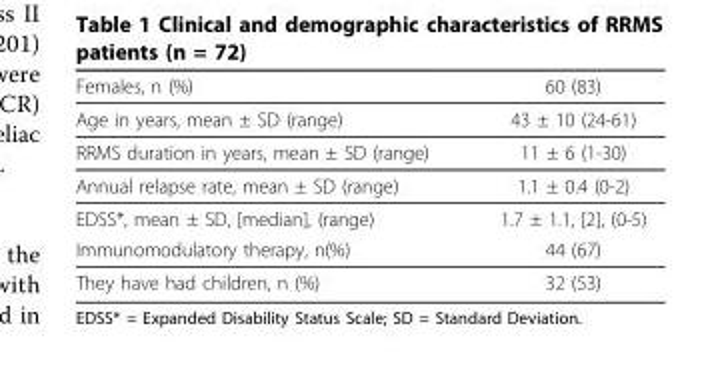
<table><thead><tr><td>Females, n (%)</td><td>60 (83)</td></tr></thead><tbody><tr><td>Age in years, mean ± SD (range)</td><td>43 ± 10 (24-61)</td></tr><tr><td>RRMS duration in years, mean ± SD (range)</td><td>11 ± 6 (1-30)</td></tr><tr><td>Annual relapse rate, mean ± SD (range)</td><td>1.1 ± 0.4 (0-2)</td></tr><tr><td>EDSS*, mean ± SD, [median], (range)</td><td>1.7 ± 1.1, [2], (0-5)</td></tr><tr><td>Immunomodulatory therapy, n(%)</td><td>44 (67)</td></tr><tr><td>They have had children, n (%)</td><td>32 (53)</td></tr></tbody></table>